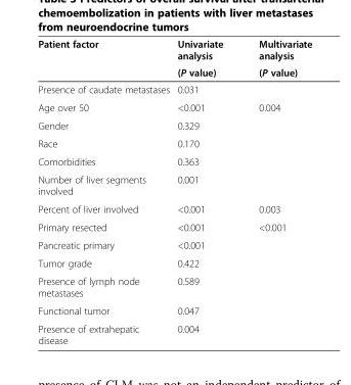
<table><thead><tr><td rowspan="2">Patient factor</td><td rowspan="2">Univariate analysis (P value)</td><td rowspan="2">Multivariate analysis (P value)</td></tr><tr></tr></thead><tbody><tr><td>Presence of caudate metastases</td><td>0.031</td><td></td></tr><tr><td>Age over 50</td><td>&lt;0.001</td><td>0.004</td></tr><tr><td>Gender</td><td>0.329</td><td></td></tr><tr><td>Race</td><td>0.170</td><td></td></tr><tr><td>Comorbidities</td><td>0.363</td><td></td></tr><tr><td>Number of liver segments involved</td><td>0.001</td><td></td></tr><tr><td>Percent of liver involved</td><td>&lt;0.001</td><td>0.003</td></tr><tr><td>Primary resected</td><td>&lt;0.001</td><td>&lt;0.001</td></tr><tr><td>Pancreatic primary</td><td>&lt;0.001</td><td></td></tr><tr><td>Tumor grade</td><td>0.422</td><td></td></tr><tr><td>Presence of lymph node metastases</td><td>0.589</td><td></td></tr><tr><td>Functional tumor</td><td>0.047</td><td></td></tr><tr><td>Presence of extrahepatic disease</td><td>0.004</td><td></td></tr></tbody></table>